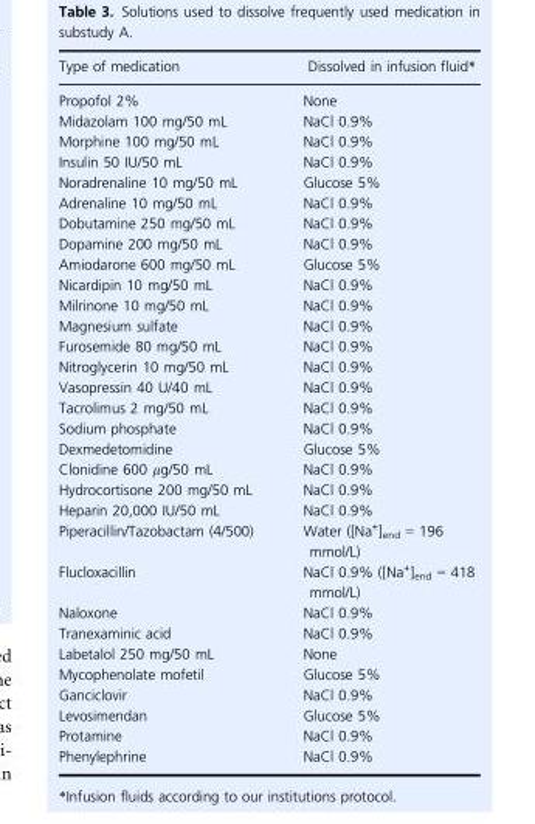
<table><thead><tr><td>Type of medication</td><td>Dissolved in infusion fluid*</td></tr></thead><tbody><tr><td>Propofol 2%</td><td>None</td></tr><tr><td>Midazolam 100 mg/50 mL</td><td>NaCl 0.9%</td></tr><tr><td>Morphine 100 mg/50 mL</td><td>NaCl 0.9%</td></tr><tr><td>Insulin 50 IU/50 mL</td><td>NaCl 0.9%</td></tr><tr><td>Noradrenaline 10 mg/50 mL</td><td>Glucose 5%</td></tr><tr><td>Adrenaline 10 mg/50 mL</td><td>NaCl 0.9%</td></tr><tr><td>Dobutamine 250 mg/50 mL</td><td>NaCl 0.9%</td></tr><tr><td>Dopamine 200 mg/50 mL</td><td>NaCl 0.9%</td></tr><tr><td>Amiodarone 600 mg/50 mL</td><td>Glucose 5%</td></tr><tr><td>Nicardipin 10 mg/50 mL</td><td>NaCl 0.9%</td></tr><tr><td>Milrinone 10 mg/50 mL</td><td>NaCl 0.9%</td></tr><tr><td>Magnesium sulfate</td><td>NaCl 0.9%</td></tr><tr><td>Furosemide 80 mg/50 mL</td><td>NaCl 0.9%</td></tr><tr><td>Nitroglycerin 10 mg/50 mL</td><td>NaCl 0.9%</td></tr><tr><td>Vasopressin 40 U/40 mL</td><td>NaCl 0.9%</td></tr><tr><td>Tacrolimus 2 mg/50 mL</td><td>NaCl 0.9%</td></tr><tr><td>Sodium phosphate</td><td>NaCl 0.9%</td></tr><tr><td>Dexmedetomidine</td><td>Glucose 5%</td></tr><tr><td>Clonidine 600 μg/50 mL</td><td>NaCl 0.9%</td></tr><tr><td>Hydrocortisone 200 mg/50 mL</td><td>NaCl 0.9%</td></tr><tr><td>Heparin 20,000 IU/50 mL</td><td>NaCl 0.9%</td></tr><tr><td>Piperacillin/Tazobactam (4/500)</td><td>Water ([Na<sup>+</sup>]<sub>end</sub> = 196 mmol/L)</td></tr><tr><td>Flucloxacillin</td><td>NaCl 0.9% ([Na<sup>+</sup>]<sub>end</sub> = 418 mmol/L)</td></tr><tr><td>Naloxone</td><td>NaCl 0.9%</td></tr><tr><td>Tranexaminic acid</td><td>NaCl 0.9%</td></tr><tr><td>Labetalol 250 mg/50 mL</td><td>None</td></tr><tr><td>Mycophenolate mofetil</td><td>Glucose 5%</td></tr><tr><td>Ganciclovir</td><td>NaCl 0.9%</td></tr><tr><td>Levosimendan</td><td>Glucose 5%</td></tr><tr><td>Protamine</td><td>NaCl 0.9%</td></tr><tr><td>Phenylephrine</td><td>NaCl 0.9%</td></tr></tbody></table>